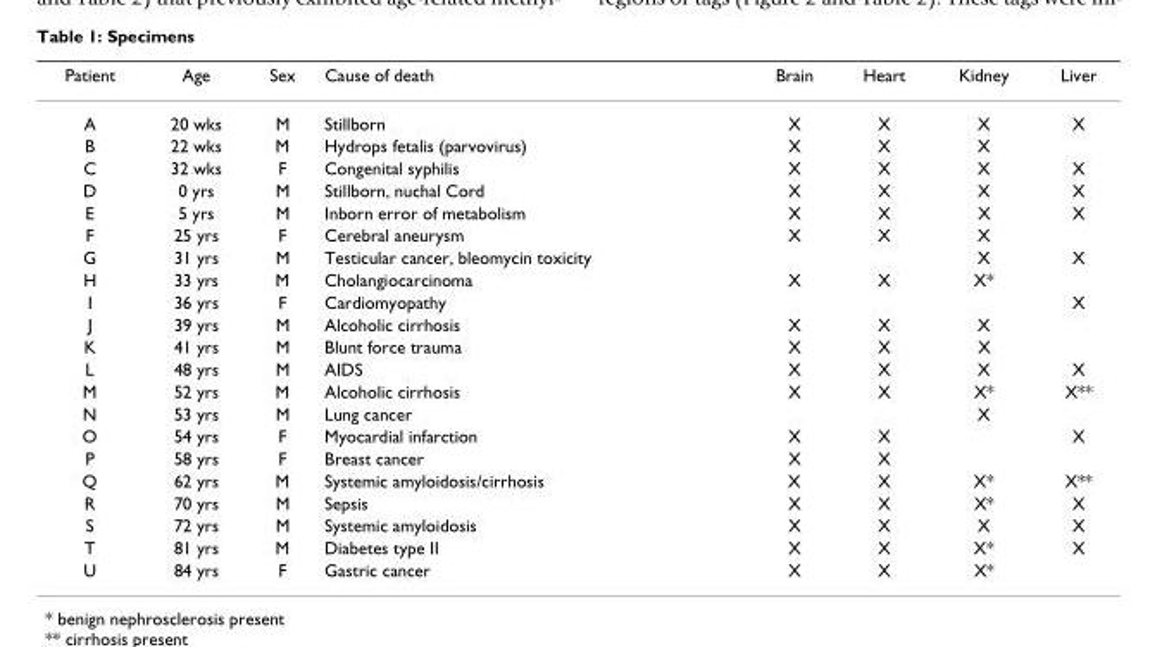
<table><thead><tr><td>Patient</td><td>Age</td><td>Sex</td><td>Cause of death</td><td>Brain</td><td>Heart</td><td>Kidney</td><td>Liver</td></tr></thead><tbody><tr><td>A</td><td>20 wks</td><td>M</td><td>Stillborn</td><td>X</td><td>X</td><td>X</td><td>X</td></tr><tr><td>B</td><td>22 wks</td><td>M</td><td>Hydrops fetalis (parvovirus)</td><td>X</td><td>X</td><td>X</td><td></td></tr><tr><td>C</td><td>32 wks</td><td>F</td><td>Congenital syphilis</td><td>X</td><td>X</td><td>X</td><td>X</td></tr><tr><td>D</td><td>0 yrs</td><td>M</td><td>Stillborn, nuchal Cord</td><td>X</td><td>X</td><td>X</td><td>X</td></tr><tr><td>E</td><td>5 yrs</td><td>M</td><td>Inborn error of metabolism</td><td>X</td><td>X</td><td>X</td><td>X</td></tr><tr><td>F</td><td>25 yrs</td><td>F</td><td>Cerebral aneurysm</td><td>X</td><td>X</td><td>X</td><td></td></tr><tr><td>G</td><td>31 yrs</td><td>M</td><td>Testicular cancer, bleomycin toxicity</td><td></td><td></td><td>X</td><td>X</td></tr><tr><td>H</td><td>33 yrs</td><td>M</td><td>Cholangiocarcinoma</td><td>X</td><td>X</td><td>X*</td><td></td></tr><tr><td>I</td><td>36 yrs</td><td>F</td><td>Cardiomyopathy</td><td></td><td></td><td></td><td>X</td></tr><tr><td>J</td><td>39 yrs</td><td>M</td><td>Alcoholic cirrhosis</td><td>X</td><td>X</td><td>X</td><td></td></tr><tr><td>K</td><td>41 yrs</td><td>M</td><td>Blunt force trauma</td><td>X</td><td>X</td><td>X</td><td></td></tr><tr><td>L</td><td>48 yrs</td><td>M</td><td>AIDS</td><td>X</td><td>X</td><td>X</td><td>X</td></tr><tr><td>M</td><td>52 yrs</td><td>M</td><td>Alcoholic cirrhosis</td><td>X</td><td>X</td><td>X*</td><td>X**</td></tr><tr><td>N</td><td>53 yrs</td><td>M</td><td>Lung cancer</td><td></td><td></td><td>X</td><td></td></tr><tr><td>O</td><td>54 yrs</td><td>F</td><td>Myocardial infarction</td><td>X</td><td>X</td><td></td><td>X</td></tr><tr><td>P</td><td>58 yrs</td><td>F</td><td>Breast cancer</td><td>X</td><td>X</td><td></td><td></td></tr><tr><td>Q</td><td>62 yrs</td><td>M</td><td>Systemic amyloidosis/cirrhosis</td><td>X</td><td>X</td><td>X*</td><td>X**</td></tr><tr><td>R</td><td>70 yrs</td><td>M</td><td>Sepsis</td><td>X</td><td>X</td><td>X*</td><td>X</td></tr><tr><td>S</td><td>72 yrs</td><td>M</td><td>Systemic amyloidosis</td><td>X</td><td>X</td><td>X</td><td>X</td></tr><tr><td>T</td><td>81 yrs</td><td>M</td><td>Diabetes type II</td><td>X</td><td>X</td><td>X*</td><td>X</td></tr><tr><td>U</td><td>84 yrs</td><td>F</td><td>Gastric cancer</td><td>X</td><td>X</td><td>X*</td><td></td></tr></tbody></table>